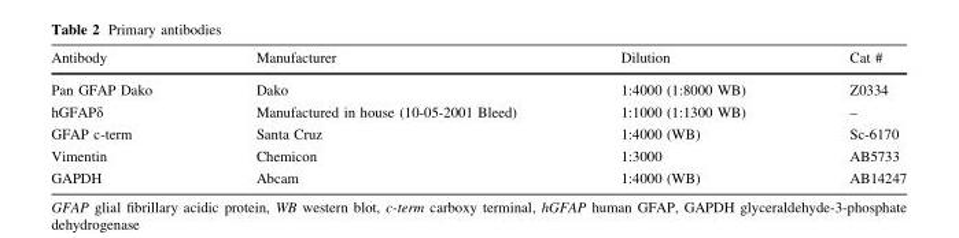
<table><thead><tr><td>Antibody</td><td>Manufacturer</td><td>Dilution</td><td>Cat #</td></tr></thead><tbody><tr><td>Pan GFAP Dako</td><td>Dako</td><td>1:4000 (1:8000 WB)</td><td>Z0334</td></tr><tr><td>hGFAPδ</td><td>Manufactured in house (10-05-2001 Bleed)</td><td>1:1000 (1:1300 WB)</td><td>–</td></tr><tr><td>GFAP c-term</td><td>Santa Cruz</td><td>1:4000 (WB)</td><td>Sc-6170</td></tr><tr><td>Vimentin</td><td>Chemicon</td><td>1:3000</td><td>AB5733</td></tr><tr><td>GAPDH</td><td>Abcam</td><td>1:4000 (WB)</td><td>AB14247</td></tr></tbody></table>